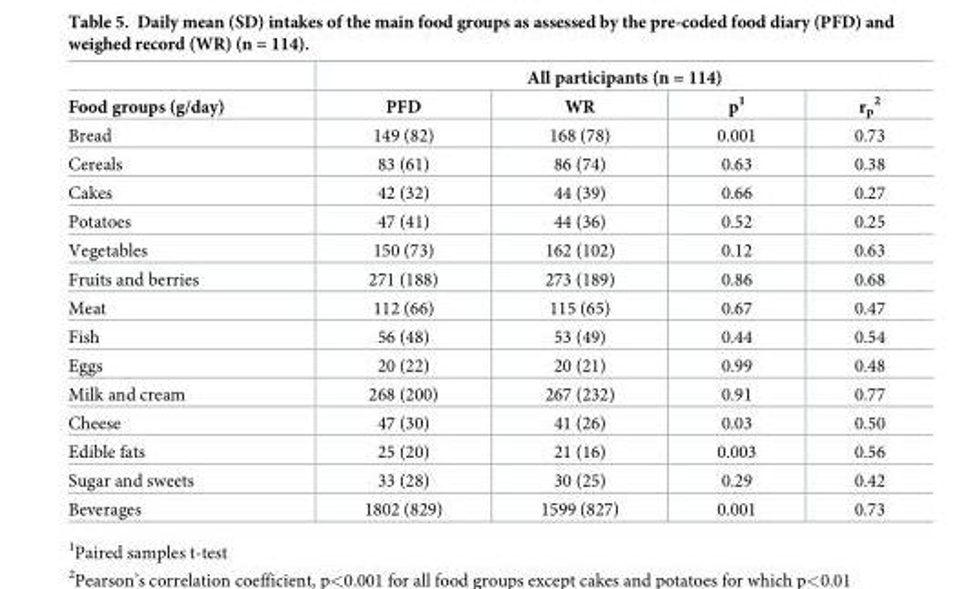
<table><thead><tr><td rowspan="2">Food groups (g/day)</td><td colspan="4">All participants (n = 114)</td></tr><tr><td>PFD</td><td>WR</td><td>p<sup>1</sup></td><td>r<sub>p</sub> <sup>2</sup></td></tr></thead><tbody><tr><td>Bread</td><td>149 (82)</td><td>168 (78)</td><td>0.001</td><td>0.73</td></tr><tr><td>Cereals</td><td>83 (61)</td><td>86 (74)</td><td>0.63</td><td>0.38</td></tr><tr><td>Cakes</td><td>42 (32)</td><td>44 (39)</td><td>0.66</td><td>0.27</td></tr><tr><td>Potatoes</td><td>47 (41)</td><td>44 (36)</td><td>0.52</td><td>0.25</td></tr><tr><td>Vegetables</td><td>150 (73)</td><td>162 (102)</td><td>0.12</td><td>0.63</td></tr><tr><td>Fruits and berries</td><td>271 (188)</td><td>273 (189)</td><td>0.86</td><td>0.68</td></tr><tr><td>Meat</td><td>112 (66)</td><td>115 (65)</td><td>0.67</td><td>0.47</td></tr><tr><td>Fish</td><td>56 (48)</td><td>53 (49)</td><td>0.44</td><td>0.54</td></tr><tr><td>Eggs</td><td>20 (22)</td><td>20 (21)</td><td>0.99</td><td>0.48</td></tr><tr><td>Milk and cream</td><td>268 (200)</td><td>267 (232)</td><td>0.91</td><td>0.77</td></tr><tr><td>Cheese</td><td>47 (30)</td><td>41 (26)</td><td>0.03</td><td>0.50</td></tr><tr><td>Edible fats</td><td>25 (20)</td><td>21 (16)</td><td>0.003</td><td>0.56</td></tr><tr><td>Sugar and sweets</td><td>33 (28)</td><td>30 (25)</td><td>0.29</td><td>0.42</td></tr><tr><td>Beverages</td><td>1802 (829)</td><td>1599 (827)</td><td>0.001</td><td>0.73</td></tr></tbody></table>